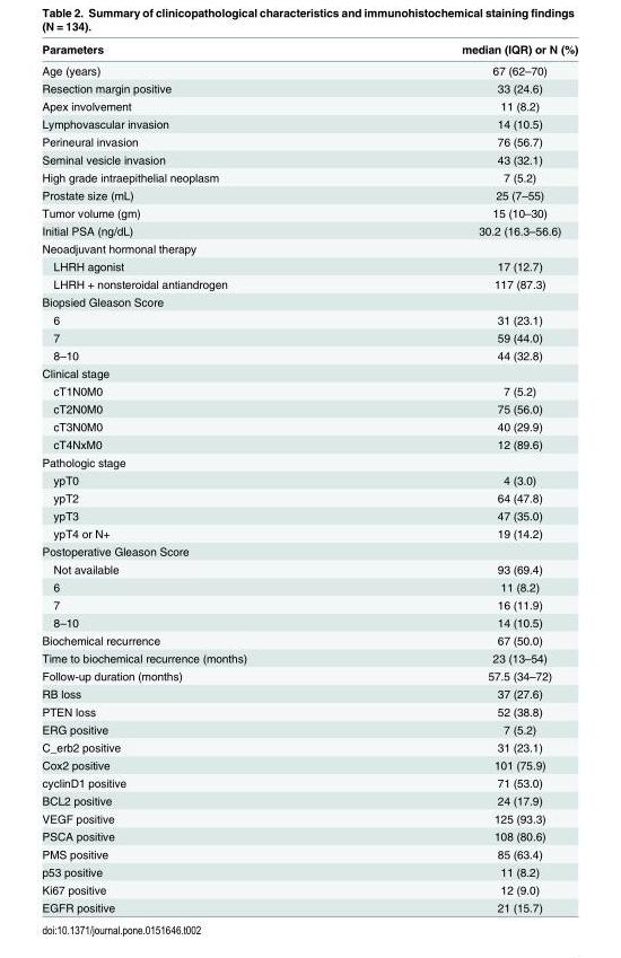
<table><thead><tr><td>Parameters</td><td>median (IQR) or N (%)</td></tr></thead><tbody><tr><td>Age (years)</td><td>67 (62–70)</td></tr><tr><td>Resection margin positive</td><td>33 (24.6)</td></tr><tr><td>Apex involvement</td><td>11 (8.2)</td></tr><tr><td>Lymphovascular invasion</td><td>14 (10.5)</td></tr><tr><td>Perineural invasion</td><td>76 (56.7)</td></tr><tr><td>Seminal vesicle invasion</td><td>43 (32.1)</td></tr><tr><td>High grade intraepithelial neoplasm</td><td>7 (5.2)</td></tr><tr><td>Prostate size (mL)</td><td>25 (7–55)</td></tr><tr><td>Tumor volume (gm)</td><td>15 (10–30)</td></tr><tr><td>Initial PSA (ng/dL)</td><td>30.2 (16.3–56.6)</td></tr><tr><td colspan="2">Neoadjuvant hormonal therapy</td></tr><tr><td>LHRH agonist</td><td>17 (12.7)</td></tr><tr><td>LHRH + nonsteroidal antiandrogen</td><td>117 (87.3)</td></tr><tr><td colspan="2">Biopsied Gleason Score</td></tr><tr><td>6</td><td>31 (23.1)</td></tr><tr><td>7</td><td>59 (44.0)</td></tr><tr><td>8–10</td><td>44 (32.8)</td></tr><tr><td colspan="2">Clinical stage</td></tr><tr><td>cT1N0M0</td><td>7 (5.2)</td></tr><tr><td>cT2N0M0</td><td>75 (56.0)</td></tr><tr><td>cT3N0M0</td><td>40 (29.9)</td></tr><tr><td>cT4NxM0</td><td>12 (89.6)</td></tr><tr><td colspan="2">Pathologic stage</td></tr><tr><td>ypT0</td><td>4 (3.0)</td></tr><tr><td>ypT2</td><td>64 (47.8)</td></tr><tr><td>ypT3</td><td>47 (35.0)</td></tr><tr><td>ypT4 or N+</td><td>19 (14.2)</td></tr><tr><td colspan="2">Postoperative Gleason Score</td></tr><tr><td>Not available</td><td>93 (69.4)</td></tr><tr><td>6</td><td>11 (8.2)</td></tr><tr><td>7</td><td>16 (11.9)</td></tr><tr><td>8–10</td><td>14 (10.5)</td></tr><tr><td>Biochemical recurrence</td><td>67 (50.0)</td></tr><tr><td>Time to biochemical recurrence (months)</td><td>23 (13–54)</td></tr><tr><td>Follow-up duration (months)</td><td>57.5 (34–72)</td></tr><tr><td>RB loss</td><td>37 (27.6)</td></tr><tr><td>PTEN loss</td><td>52 (38.8)</td></tr><tr><td>ERG positive</td><td>7 (5.2)</td></tr><tr><td>C_erb2 positive</td><td>31 (23.1)</td></tr><tr><td>Cox2 positive</td><td>101 (75.9)</td></tr><tr><td>cyclinD1 positive</td><td>71 (53.0)</td></tr><tr><td>BCL2 positive</td><td>24 (17.9)</td></tr><tr><td>VEGF positive</td><td>125 (93.3)</td></tr><tr><td>PSCA positive</td><td>108 (80.6)</td></tr><tr><td>PMS positive</td><td>85 (63.4)</td></tr><tr><td>p53 positive</td><td>11 (8.2)</td></tr><tr><td>Ki67 positive</td><td>12 (9.0)</td></tr><tr><td>EGFR positive</td><td>21 (15.7)</td></tr></tbody></table>